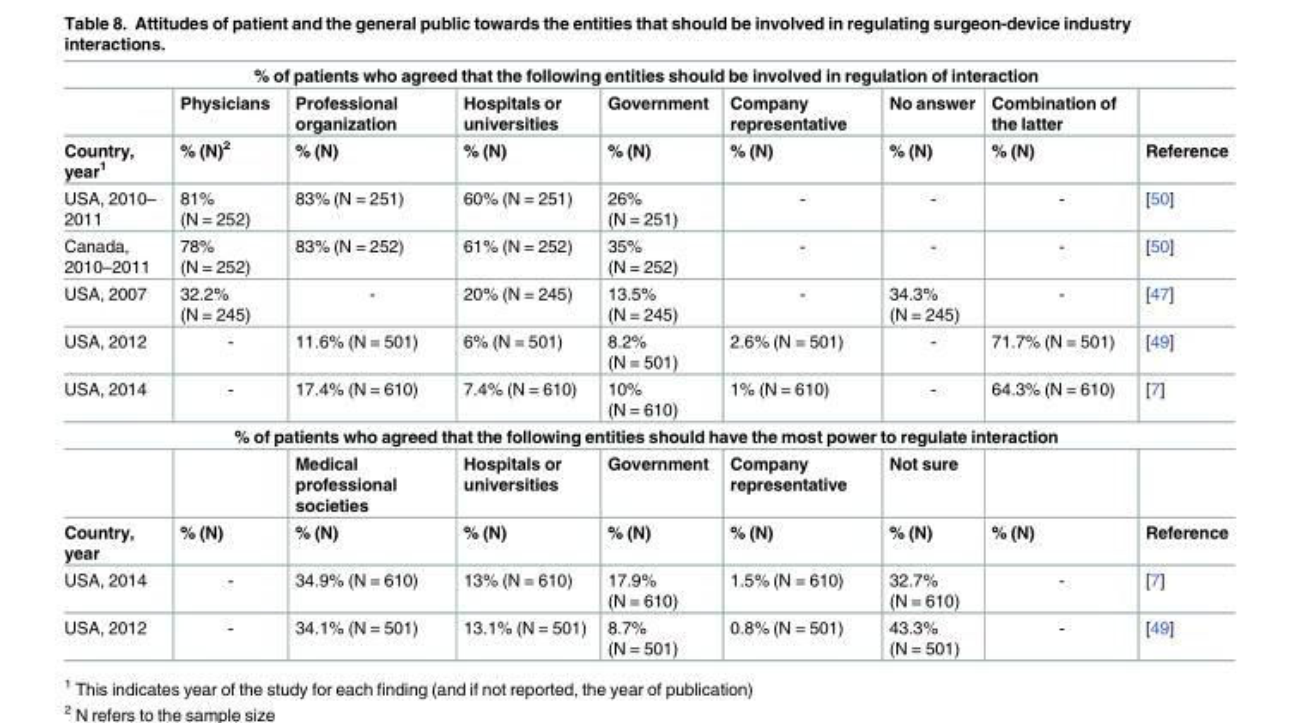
<table><tbody><tr><td colspan="9">% of patients who agreed that the following entities should be involved in regulation of interaction</td></tr><tr><td></td><td>Physicians</td><td>Professional organization</td><td>Hospitals or universities</td><td>Government</td><td>Company representative</td><td>No answer</td><td>Combination of the latter</td><td></td></tr><tr><td>Country, year<sup>1</sup></td><td>% (N)<sup>2</sup></td><td>% (N)</td><td>% (N)</td><td>% (N)</td><td>% (N)</td><td>% (N)</td><td>% (N)</td><td>Reference</td></tr><tr><td>USA, 2010– 2011</td><td>81% (N = 252)</td><td>83% (N = 251)</td><td>60% (N = 251)</td><td>26% (N = 251)</td><td>-</td><td>-</td><td>-</td><td>[50]</td></tr><tr><td>Canada, 2010–2011</td><td>78% (N = 252)</td><td>83% (N = 252)</td><td>61% (N = 252)</td><td>35% (N = 252)</td><td>-</td><td>-</td><td>-</td><td>[50]</td></tr><tr><td>USA, 2007</td><td>32.2% (N = 245)</td><td>-</td><td>20% (N = 245)</td><td>13.5% (N = 245)</td><td>-</td><td>34.3% (N = 245)</td><td>-</td><td>[47]</td></tr><tr><td>USA, 2012</td><td>-</td><td>11.6% (N = 501)</td><td>6% (N = 501)</td><td>8.2% (N = 501)</td><td>2.6% (N = 501)</td><td>-</td><td>71.7% (N = 501)</td><td>[49]</td></tr><tr><td>USA, 2014</td><td>-</td><td>17.4% (N = 610)</td><td>7.4% (N = 610)</td><td>10% (N = 610)</td><td>1% (N = 610)</td><td>-</td><td>64.3% (N = 610)</td><td>[7]</td></tr><tr><td colspan="9">% of patients who agreed that the following entities should have the most power to regulate interaction</td></tr><tr><td></td><td></td><td>Medical professional societies</td><td>Hospitals or universities</td><td>Government</td><td>Company representative</td><td>Not sure</td><td></td><td></td></tr><tr><td>Country, year</td><td>% (N)</td><td>% (N)</td><td>% (N)</td><td>% (N)</td><td>% (N)</td><td>% (N)</td><td>% (N)</td><td>Reference</td></tr><tr><td>USA, 2014</td><td>-</td><td>34.9% (N = 610)</td><td>13% (N = 610)</td><td>17.9% (N = 610)</td><td>1.5% (N = 610)</td><td>32.7% (N = 610)</td><td>-</td><td>[7]</td></tr><tr><td>USA, 2012</td><td>-</td><td>34.1% (N = 501)</td><td>13.1% (N = 501)</td><td>8.7% (N = 501)</td><td>0.8% (N = 501)</td><td>43.3% (N = 501)</td><td>-</td><td>[49]</td></tr></tbody></table>